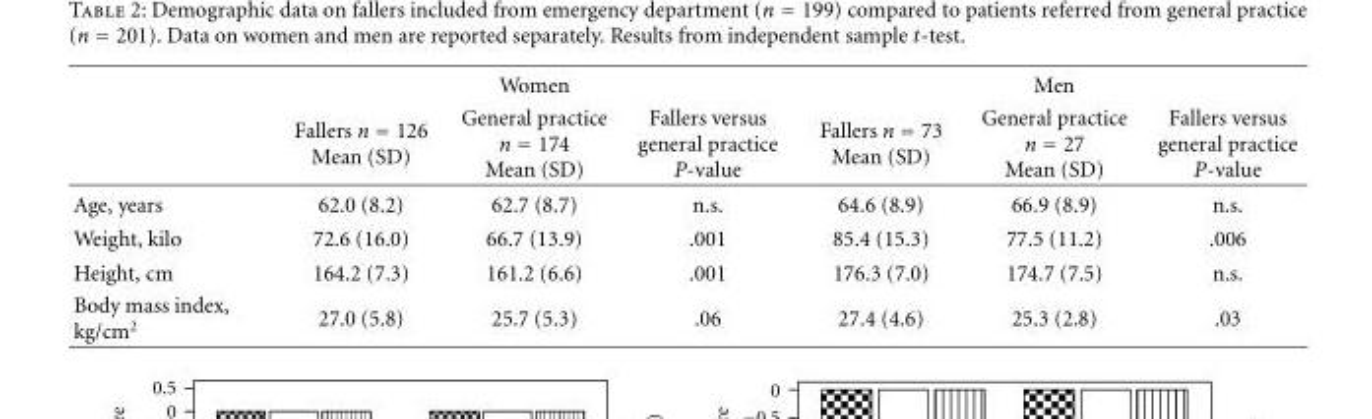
<table><thead><tr><td rowspan="2"></td><td rowspan="2">Fallers n = 126 Mean (SD)</td><td rowspan="2">Women General practice n = 174 Mean (SD)</td><td rowspan="2">Fallers versus general practice P-value</td><td rowspan="2">Fallers n = 73 Mean (SD)</td><td rowspan="2">Men General practice n = 27 Mean (SD)</td><td rowspan="2">Fallers versus general practice P-value</td></tr><tr></tr></thead><tbody><tr><td>Age, years</td><td>62.0 (8.2)</td><td>62.7 (8.7)</td><td>n.s.</td><td>64.6 (8.9)</td><td>66.9 (8.9)</td><td>n.s.</td></tr><tr><td>Weight, kilo</td><td>72.6 (16.0)</td><td>66.7 (13.9)</td><td>.001</td><td>85.4 (15.3)</td><td>77.5 (11.2)</td><td>.006</td></tr><tr><td>Height, cm</td><td>164.2 (7.3)</td><td>161.2 (6.6)</td><td>.001</td><td>176.3 (7.0)</td><td>174.7 (7.5)</td><td>n.s.</td></tr><tr><td>Body mass index, kg/cm<sup>2</sup></td><td>27.0 (5.8)</td><td>25.7 (5.3)</td><td>.06</td><td>27.4 (4.6)</td><td>25.3 (2.8)</td><td>.03</td></tr></tbody></table>